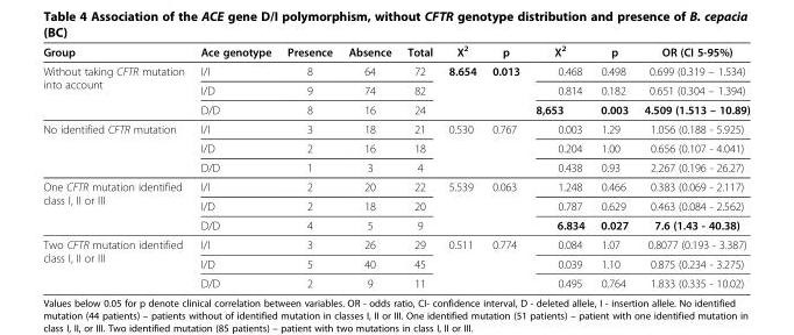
<table><thead><tr><td>Group</td><td>Ace genotype</td><td>Presence</td><td>Absence</td><td>Total</td><td>X<sup>2</sup></td><td>p</td><td>X<sup>2</sup></td><td>p</td><td>OR (CI 5-95%)</td></tr></thead><tbody><tr><td rowspan="3">Without taking CFTR mutation into account</td><td>I/I</td><td>8</td><td>64</td><td>72</td><td rowspan="3">8.654</td><td rowspan="3">0.013</td><td>0.468</td><td>0.498</td><td>0.699 (0.319 – 1.534)</td></tr><tr><td>I/D</td><td>9</td><td>74</td><td>82</td><td>0.814</td><td>0.182</td><td>0.651 (0.304 – 1.394)</td></tr><tr><td>D/D</td><td>8</td><td>16</td><td>24</td><td>8,653</td><td>0.003</td><td>4.509 (1.513 – 10.89)</td></tr><tr><td rowspan="3">No identified CFTR mutation</td><td>I/I</td><td>3</td><td>18</td><td>21</td><td rowspan="3">0.530</td><td rowspan="3">0.767</td><td>0.003</td><td>1.29</td><td>1.056 (0.188 - 5.925)</td></tr><tr><td>I/D</td><td>2</td><td>16</td><td>18</td><td>0.204</td><td>1.00</td><td>0.656 (0.107 - 4.041)</td></tr><tr><td>D/D</td><td>1</td><td>3</td><td>4</td><td>0.438</td><td>0.93</td><td>2.267 (0.196 - 26.27)</td></tr><tr><td rowspan="3">One CFTR mutation identified class I, II or III</td><td>I/I</td><td>2</td><td>20</td><td>22</td><td rowspan="3">5.539</td><td rowspan="3">0.063</td><td>1.248</td><td>0.466</td><td>0.383 (0.069 - 2.117)</td></tr><tr><td>I/D</td><td>2</td><td>18</td><td>20</td><td>0.787</td><td>0.629</td><td>0.463 (0.084 - 2.562)</td></tr><tr><td>D/D</td><td>4</td><td>5</td><td>9</td><td>6.834</td><td>0.027</td><td>7.6 (1.43 - 40.38)</td></tr><tr><td rowspan="3">Two CFTR mutation identified class I, II or III</td><td>I/I</td><td>3</td><td>26</td><td>29</td><td rowspan="3">0.511</td><td rowspan="3">0.774</td><td>0.084</td><td>1.07</td><td>0.8077 (0.193 - 3.387)</td></tr><tr><td>I/D</td><td>5</td><td>40</td><td>45</td><td>0.039</td><td>1.10</td><td>0.875 (0.234 - 3.275)</td></tr><tr><td>D/D</td><td>2</td><td>9</td><td>11</td><td>0.495</td><td>0.764</td><td>1.833 (0.335 - 10.02)</td></tr></tbody></table>